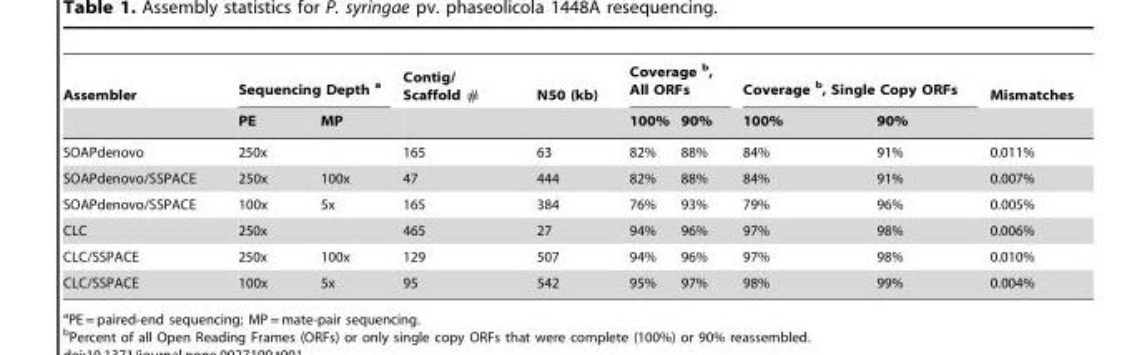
<table><thead><tr><td rowspan="2">Assembler</td><td colspan="2">Sequencing Depth a</td><td rowspan="2">Contig/ Scaffold #</td><td rowspan="2">N50 (kb)</td><td colspan="2">Coverage b, All ORFs</td><td colspan="2">Coverage b, Single Copy ORFs</td><td rowspan="2">Mismatches</td></tr><tr><td>PE</td><td>MP</td><td>100%</td><td>90%</td><td>100%</td><td>90%</td></tr></thead><tbody><tr><td>SOAPdenovo</td><td>250x</td><td></td><td>165</td><td>63</td><td>82%</td><td>88%</td><td>84%</td><td>91%</td><td>0.011%</td></tr><tr><td>SOAPdenovo/SSPACE</td><td>250x</td><td>100x</td><td>47</td><td>444</td><td>82%</td><td>88%</td><td>84%</td><td>91%</td><td>0.007%</td></tr><tr><td>SOAPdenovo/SSPACE</td><td>100x</td><td>5x</td><td>165</td><td>384</td><td>76%</td><td>93%</td><td>79%</td><td>96%</td><td>0.005%</td></tr><tr><td>CLC</td><td>250x</td><td></td><td>465</td><td>27</td><td>94%</td><td>96%</td><td>97%</td><td>98%</td><td>0.006%</td></tr><tr><td>CLC/SSPACE</td><td>250x</td><td>100x</td><td>129</td><td>507</td><td>94%</td><td>96%</td><td>97%</td><td>98%</td><td>0.010%</td></tr><tr><td>CLC/SSPACE</td><td>100x</td><td>5x</td><td>95</td><td>542</td><td>95%</td><td>97%</td><td>98%</td><td>99%</td><td>0.004%</td></tr></tbody></table>